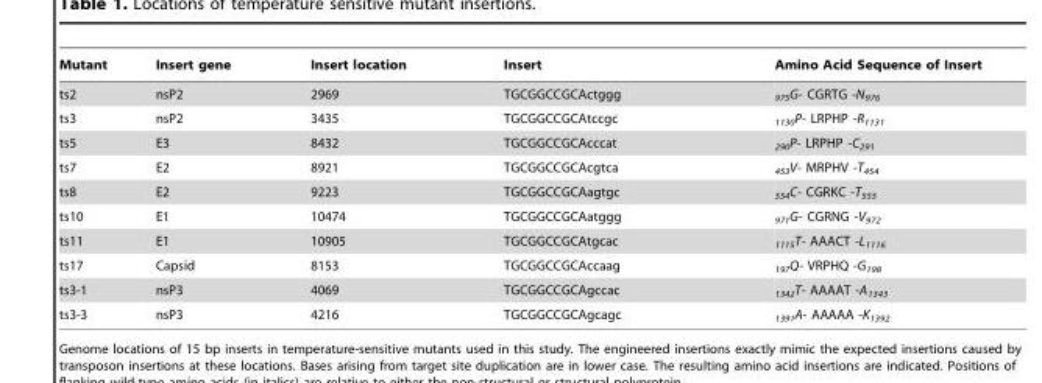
<table><thead><tr><td>Mutant</td><td>Insert gene</td><td>Insert location</td><td>Insert</td><td>Amino Acid Sequence of Insert</td></tr></thead><tbody><tr><td>ts2</td><td>nsP2</td><td>2969</td><td>TGCGGCCGCActggg</td><td><sub>975</sub>G- CGRTG -N<sub>976</sub></td></tr><tr><td>ts3</td><td>nsP2</td><td>3435</td><td>TGCGGCCGCAtccgc</td><td><sub>1130</sub>P- LRPHP -R<sub>1131</sub></td></tr><tr><td>ts5</td><td>E3</td><td>8432</td><td>TGCGGCCGCAcccat</td><td><sub>290</sub>P- LRPHP -C<sub>291</sub></td></tr><tr><td>ts7</td><td>E2</td><td>8921</td><td>TGCGGCCGCAcgtca</td><td><sub>453</sub>V- MRPHV -T<sub>454</sub></td></tr><tr><td>ts8</td><td>E2</td><td>9223</td><td>TGCGGCCGCAagtgc</td><td><sub>554</sub>C- CGRKC -T<sub>555</sub></td></tr><tr><td>ts10</td><td>E1</td><td>10474</td><td>TGCGGCCGCAatggg</td><td><sub>971</sub>G- CGRNG -V<sub>972</sub></td></tr><tr><td>ts11</td><td>E1</td><td>10905</td><td>TGCGGCCGCAtgcac</td><td><sub>1115</sub>T- AAACT -L<sub>1116</sub></td></tr><tr><td>ts17</td><td>Capsid</td><td>8153</td><td>TGCGGCCGCAccaag</td><td><sub>197</sub>Q- VRPHQ -G<sub>198</sub></td></tr><tr><td>ts3-1</td><td>nsP3</td><td>4069</td><td>TGCGGCCGCAgccac</td><td><sub>1342</sub>T- AAAAT -A<sub>1343</sub></td></tr><tr><td>ts3-3</td><td>nsP3</td><td>4216</td><td>TGCGGCCGCAgcagc</td><td><sub>1391</sub>A- AAAAA -K<sub>1392</sub></td></tr></tbody></table>